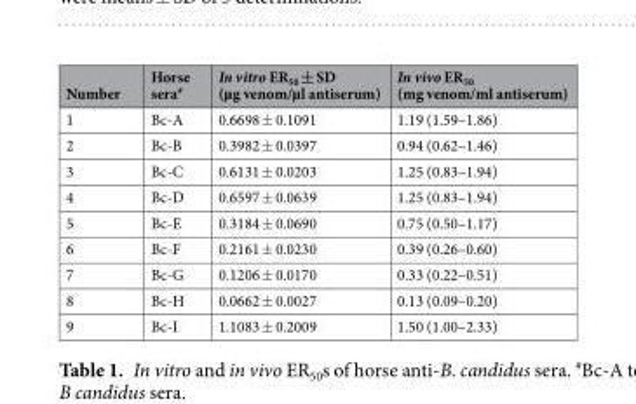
<table><thead><tr><td>Number</td><td>Horse sera<sup>#</sup></td><td>In vitro ER<sub>50</sub> ± SD (µg venom/µl antiserum)</td><td>In vivo ER<sub>50</sub> (mg venom/ml antiserum)</td></tr></thead><tbody><tr><td>1</td><td>Bc-A</td><td>0.6698 ± 0.1091</td><td>1.19 (1.59–1.86)</td></tr><tr><td>2</td><td>Bc-B</td><td>0.3982 ± 0.0397</td><td>0.94 (0.62–1.46)</td></tr><tr><td>3</td><td>Bc-C</td><td>0.6131 ± 0.0203</td><td>1.25 (0.83–1.94)</td></tr><tr><td>4</td><td>Bc-D</td><td>0.6597 ± 0.0639</td><td>1.25 (0.83–1.94)</td></tr><tr><td>5</td><td>Bc-E</td><td>0.3184 ± 0.0690</td><td>0.75 (0.50–1.17)</td></tr><tr><td>6</td><td>Bc-F</td><td>0.2161 ± 0.0230</td><td>0.39 (0.26–0.60)</td></tr><tr><td>7</td><td>Bc-G</td><td>0.1206 ± 0.0170</td><td>0.33 (0.22–0.51)</td></tr><tr><td>8</td><td>Bc-H</td><td>0.0662 ± 0.0027</td><td>0.13 (0.09–0.20)</td></tr><tr><td>9</td><td>Bc-I</td><td>1.1083 ± 0.2009</td><td>1.50 (1.00–2.33)</td></tr></tbody></table>